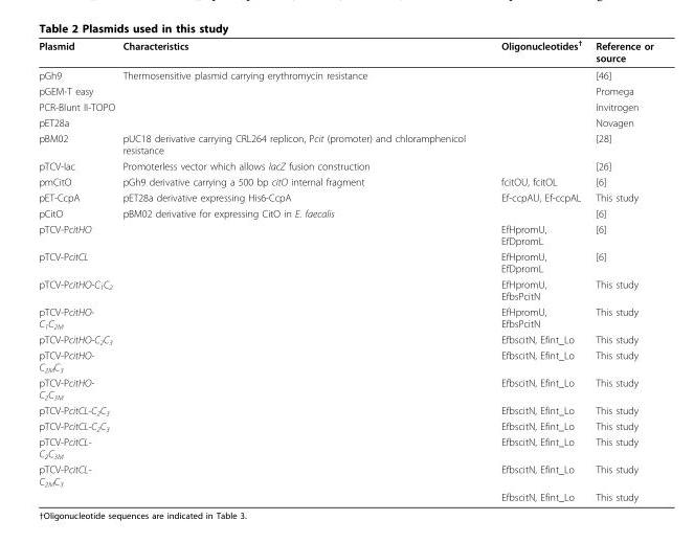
<table><thead><tr><td>Plasmid</td><td>Characteristics</td><td>Oligonucleotides<sup>†</sup></td><td>Reference or source</td></tr></thead><tbody><tr><td>pGh9</td><td>Thermosensitive plasmid carrying erythromycin resistance</td><td></td><td>[46]</td></tr><tr><td>pGEM-T easy</td><td></td><td></td><td>Promega</td></tr><tr><td>PCR-Blunt II-TOPO</td><td></td><td></td><td>Invitrogen</td></tr><tr><td>pET28a</td><td></td><td></td><td>Novagen</td></tr><tr><td>pBM02</td><td>pUC18 derivative carrying CRL264 replicon, Pcit (promoter) and chloramphenicol resistance</td><td></td><td>[28]</td></tr><tr><td>pTCV-lac</td><td>Promoterless vector which allows lacZ fusion construction</td><td></td><td>[26]</td></tr><tr><td>pmCitO</td><td>pGh9 derivative carrying a 500 bp citO internal fragment</td><td>fcitOU, fcitOL</td><td>[6]</td></tr><tr><td>pET-CcpA</td><td>pET28a derivative expressing His6-CcpA</td><td>Ef-ccpAU, Ef-ccpAL</td><td>This study</td></tr><tr><td>pCitO</td><td>pBM02 derivative for expressing CitO in E. faecalis</td><td></td><td>[6]</td></tr><tr><td>pTCV-PcitHO</td><td></td><td>EfHpromU, EfDpromL</td><td>[6]</td></tr><tr><td>pTCV-PcitCL</td><td></td><td>EfHpromU, EfDpromL</td><td>[6]</td></tr><tr><td>pTCV-PcitHO-C<sub>1</sub>C<sub>2</sub></td><td></td><td>EfHpromU, EfbsPcitN</td><td>This study</td></tr><tr><td>pTCV-PcitHO- C<sub>1</sub>C<sub>2M</sub></td><td></td><td>EfHpromU, EfbsPcitN</td><td>This study</td></tr><tr><td>pTCV-PcitHO-C<sub>2</sub>C<sub>3</sub></td><td></td><td>EfbscitN, Efint_Lo</td><td>This study</td></tr><tr><td>pTCV-PcitHO- C<sub>2M</sub>C<sub>3</sub></td><td></td><td>EfbscitN, Efint_Lo</td><td>This study</td></tr><tr><td>pTCV-PcitHO- C<sub>2</sub>C<sub>3M</sub></td><td></td><td>EfbscitN, Efint_Lo</td><td>This study</td></tr><tr><td>pTCV-PcitCL-C<sub>2</sub>C<sub>3</sub></td><td></td><td>EfbscitN, Efint_Lo</td><td>This study</td></tr><tr><td>pTCV-PcitCL-C<sub>2</sub>C<sub>3</sub></td><td></td><td>EfbscitN, Efint_Lo</td><td>This study</td></tr><tr><td>pTCV-PcitCL- C<sub>2</sub>C<sub>3M</sub></td><td></td><td>EfbscitN, Efint_Lo</td><td>This study</td></tr><tr><td rowspan="2">pTCV-PcitCL- C<sub>2M</sub>C<sub>3</sub></td><td></td><td>EfbscitN, Efint_Lo</td><td>This study</td></tr><tr><td></td><td>EfbscitN, Efint_Lo</td><td>This study</td></tr></tbody></table>